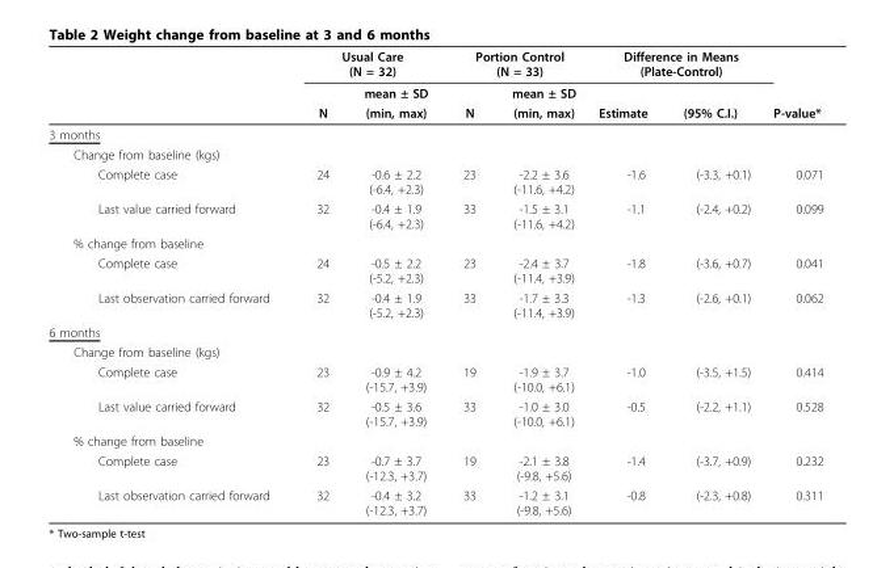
<table><thead><tr><td rowspan="3"></td><td colspan="2">Usual Care (N = 32)</td><td colspan="2">Portion Control (N = 33)</td><td colspan="2">Difference in Means (Plate-Control)</td><td rowspan="3">P-value*</td></tr><tr><td rowspan="2">N</td><td rowspan="2">mean ± SD (min, max)</td><td rowspan="2">N</td><td rowspan="2">mean ± SD (min, max)</td><td rowspan="2">Estimate</td><td rowspan="2">(95% C.I.)</td></tr><tr></tr></thead><tbody><tr><td colspan="8">3 months</td></tr><tr><td colspan="8">Change from baseline (kgs)</td></tr><tr><td>Complete case</td><td>24</td><td>-0.6 ± 2.2 (-6.4, +2.3)</td><td>23</td><td>-2.2 ± 3.6 (-11.6, +4.2)</td><td>-1.6</td><td>(-3.3, +0.1)</td><td>0.071</td></tr><tr><td>Last value carried forward</td><td>32</td><td>-0.4 ± 1.9 (-6.4, +2.3)</td><td>33</td><td>-1.5 ± 3.1 (-11.6, +4.2)</td><td>-1.1</td><td>(-2.4, +0.2)</td><td>0.099</td></tr><tr><td colspan="8">% change from baseline</td></tr><tr><td>Complete case</td><td>24</td><td>-0.5 ± 2.2 (-5.2, +2.3)</td><td>23</td><td>-2.4 ± 3.7 (-11.4, +3.9)</td><td>-1.8</td><td>(-3.6, +0.7)</td><td>0.041</td></tr><tr><td>Last observation carried forward</td><td>32</td><td>-0.4 ± 1.9 (-5.2, +2.3)</td><td>33</td><td>-1.7 ± 3.3 (-11.4, +3.9)</td><td>-1.3</td><td>(-2.6, +0.1)</td><td>0.062</td></tr><tr><td colspan="8">6 months</td></tr><tr><td colspan="8">Change from baseline (kgs)</td></tr><tr><td>Complete case</td><td>23</td><td>-0.9 ± 4.2 (-15.7, +3.9)</td><td>19</td><td>-1.9 ± 3.7 (-10.0, +6.1)</td><td>-1.0</td><td>(-3.5, +1.5)</td><td>0.414</td></tr><tr><td>Last value carried forward</td><td>32</td><td>-0.5 ± 3.6 (-15.7, +3.9)</td><td>33</td><td>-1.0 ± 3.0 (-10.0, +6.1)</td><td>-0.5</td><td>(-2.2, +1.1)</td><td>0.528</td></tr><tr><td colspan="8">% change from baseline</td></tr><tr><td>Complete case</td><td>23</td><td>-0.7 ± 3.7 (-12.3, +3.7)</td><td>19</td><td>-2.1 ± 3.8 (-9.8, +5.6)</td><td>-1.4</td><td>(-3.7, +0.9)</td><td>0.232</td></tr><tr><td>Last observation carried forward</td><td>32</td><td>-0.4 ± 3.2 (-12.3, +3.7)</td><td>33</td><td>-1.2 ± 3.1 (-9.8, +5.6)</td><td>-0.8</td><td>(-2.3, +0.8)</td><td>0.311</td></tr></tbody></table>